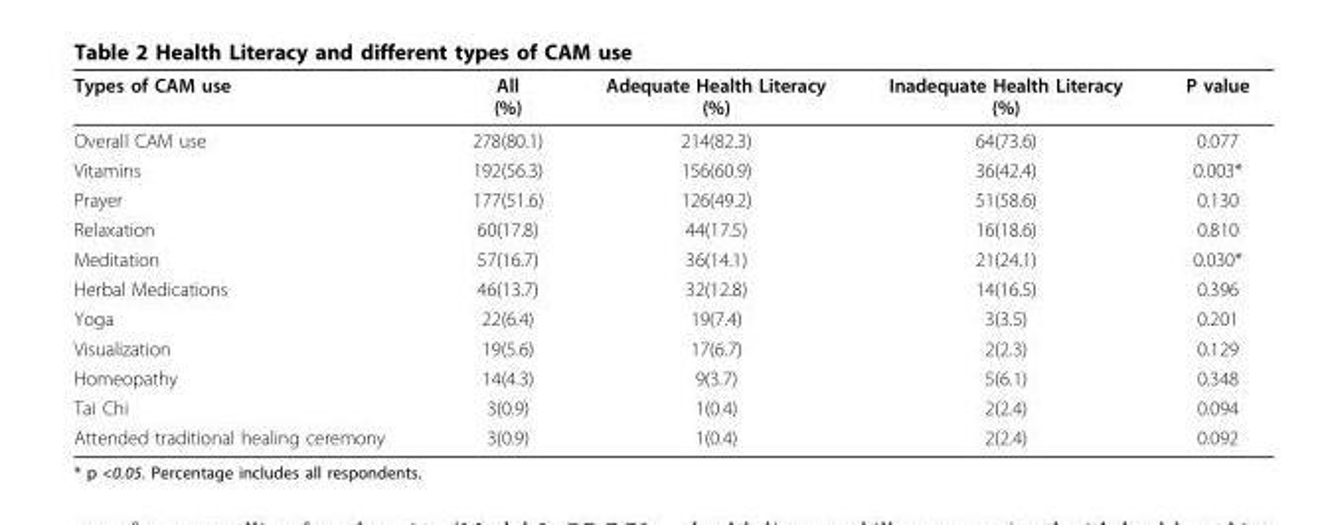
<table><thead><tr><td>Types of CAM use</td><td>All (%)</td><td>Adequate Health Literacy (%)</td><td>Inadequate Health Literacy (%)</td><td>P value</td></tr></thead><tbody><tr><td>Overall CAM use</td><td>278(80.1)</td><td>214(82.3)</td><td>64(73.6)</td><td>0.077</td></tr><tr><td>Vitamins</td><td>192(56.3)</td><td>156(60.9)</td><td>36(42.4)</td><td>0.003*</td></tr><tr><td>Prayer</td><td>177(51.6)</td><td>126(49.2)</td><td>51(58.6)</td><td>0.130</td></tr><tr><td>Relaxation</td><td>60(17.8)</td><td>44(17.5)</td><td>16(18.6)</td><td>0.810</td></tr><tr><td>Meditation</td><td>57(16.7)</td><td>36(14.1)</td><td>21(24.1)</td><td>0.030*</td></tr><tr><td>Herbal Medications</td><td>46(13.7)</td><td>32(12.8)</td><td>14(16.5)</td><td>0.396</td></tr><tr><td>Yoga</td><td>22(6.4)</td><td>19(7.4)</td><td>3(3.5)</td><td>0.201</td></tr><tr><td>Visualization</td><td>19(5.6)</td><td>17(6.7)</td><td>2(2.3)</td><td>0.129</td></tr><tr><td>Homeopathy</td><td>14(4.3)</td><td>9(3.7)</td><td>5(6.1)</td><td>0.348</td></tr><tr><td>Tai Chi</td><td>3(0.9)</td><td>1(0.4)</td><td>2(2.4)</td><td>0.094</td></tr><tr><td>Attended traditional healing ceremony</td><td>3(0.9)</td><td>1(0.4)</td><td>2(2.4)</td><td>0.092</td></tr></tbody></table>